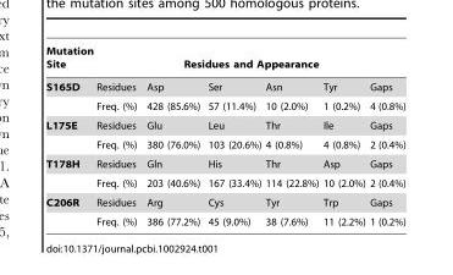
<table><thead><tr><td rowspan="2">Mutation Site S165D</td><td colspan="6">Residues and Appearance</td></tr><tr><td>Residues</td><td>Asp</td><td>Ser</td><td>Asn</td><td>Tyr</td><td>Gaps</td></tr></thead><tbody><tr><td></td><td>Freq. (%)</td><td>428 (85.6%)</td><td>57 (11.4%)</td><td>10 (2.0%)</td><td>1 (0.2%)</td><td>4 (0.8%)</td></tr><tr><td rowspan="2">L175E</td><td>Residues</td><td>Glu</td><td>Leu</td><td>Thr</td><td>Ile</td><td>Gaps</td></tr><tr><td>Freq. (%)</td><td>380 (76.0%)</td><td>103 (20.6%)</td><td>4 (0.8%)</td><td>4 (0.8%)</td><td>2 (0.4%)</td></tr><tr><td rowspan="2">T178H</td><td>Residues</td><td>Gln</td><td>His</td><td>Thr</td><td>Asp</td><td>Gaps</td></tr><tr><td>Freq. (%)</td><td>203 (40.6%)</td><td>167 (33.4%)</td><td>114 (22.8%)</td><td>10 (2.0%)</td><td>2 (0.4%)</td></tr><tr><td rowspan="2">C206R</td><td>Residues</td><td>Arg</td><td>Cys</td><td>Tyr</td><td>Trp</td><td>Gaps</td></tr><tr><td>Freq. (%)</td><td>386 (77.2%)</td><td>45 (9.0%)</td><td>38 (7.6%)</td><td>11 (2.2%)</td><td>1 (0.2%)</td></tr></tbody></table>